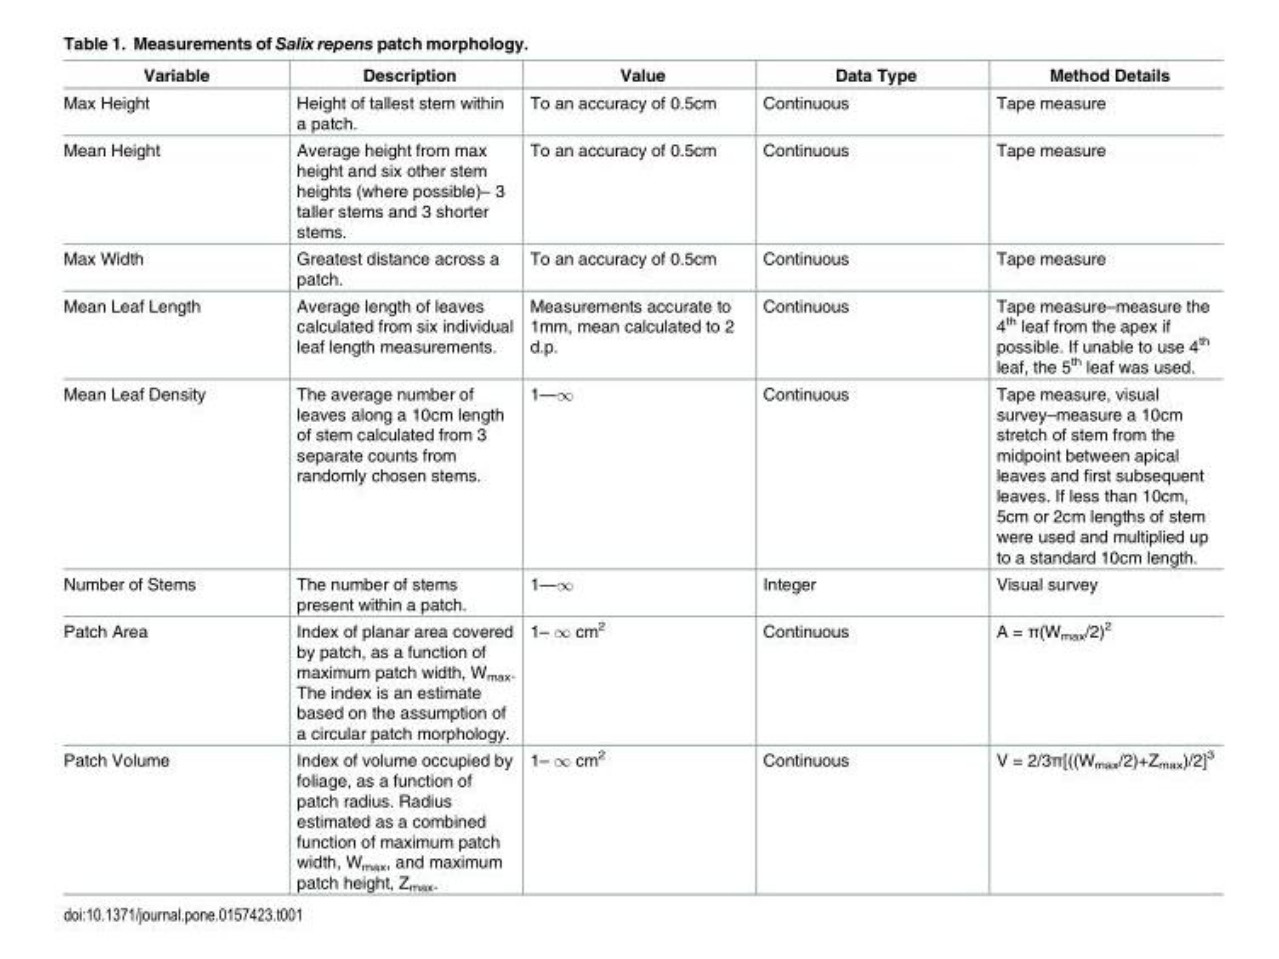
<table><thead><tr><td>Variable</td><td>Description</td><td>Value</td><td>Data Type</td><td>Method Details</td></tr></thead><tbody><tr><td>Max Height</td><td>Height of tallest stem within a patch.</td><td>To an accuracy of 0.5cm</td><td>Continuous</td><td>Tape measure</td></tr><tr><td>Mean Height</td><td>Average height from max height and six other stem heights (where possible)– 3 taller stems and 3 shorter stems.</td><td>To an accuracy of 0.5cm</td><td>Continuous</td><td>Tape measure</td></tr><tr><td>Max Width</td><td>Greatest distance across a patch.</td><td>To an accuracy of 0.5cm</td><td>Continuous</td><td>Tape measure</td></tr><tr><td>Mean Leaf Length</td><td>Average length of leaves calculated from six individual leaf length measurements.</td><td>Measurements accurate to 1mm, mean calculated to 2 d.p.</td><td>Continuous</td><td>Tape measure–measure the 4<sup>th</sup> leaf from the apex if possible. If unable to use 4<sup>th</sup> leaf, the 5<sup>th</sup> leaf was used.</td></tr><tr><td>Mean Leaf Density</td><td>The average number of leaves along a 10cm length of stem calculated from 3 separate counts from randomly chosen stems.</td><td>1—∞</td><td>Continuous</td><td>Tape measure, visual survey–measure a 10cm stretch of stem from the midpoint between apical leaves and first subsequent leaves. If less than 10cm, 5cm or 2cm lengths of stem were used and multiplied up to a standard 10cm length.</td></tr><tr><td>Number of Stems</td><td>The number of stems present within a patch.</td><td>1—∞</td><td>Integer</td><td>Visual survey</td></tr><tr><td>Patch Area</td><td>Index of planar area covered by patch, as a function of maximum patch width, W<sub>max</sub>. The index is an estimate based on the assumption of a circular patch morphology.</td><td>1– ∞ cm<sup>2</sup></td><td>Continuous</td><td>A = π(W<sub>max</sub>/2)<sup>2</sup></td></tr><tr><td>Patch Volume</td><td>Index of volume occupied by foliage, as a function of patch radius. Radius estimated as a combined function of maximum patch width, W<sub>max</sub>, and maximum patch height, Z<sub>max</sub>.</td><td>1– ∞ cm<sup>2</sup></td><td>Continuous</td><td>V = 2/3π[((W<sub>max</sub>/2)+Z<sub>max</sub>)/2]<sup>3</sup></td></tr></tbody></table>